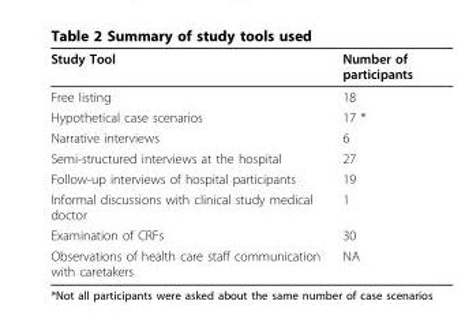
<table><thead><tr><td>Study Tool</td><td>Number of participants</td></tr></thead><tbody><tr><td>Free listing</td><td>18</td></tr><tr><td>Hypothetical case scenarios</td><td>17 *</td></tr><tr><td>Narrative interviews</td><td>6</td></tr><tr><td>Semi-structured interviews at the hospital</td><td>27</td></tr><tr><td>Follow-up interviews of hospital participants</td><td>19</td></tr><tr><td>Informal discussions with clinical study medical doctor</td><td>1</td></tr><tr><td>Examination of CRFs</td><td>30</td></tr><tr><td>Observations of health care staff communication with caretakers</td><td>NA</td></tr></tbody></table>